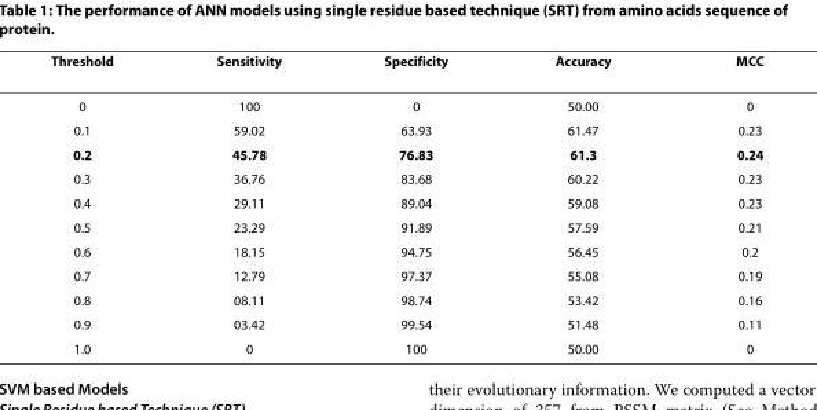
<table><thead><tr><td>Threshold</td><td>Sensitivity</td><td>Specificity</td><td>Accuracy</td><td>MCC</td></tr></thead><tbody><tr><td>0</td><td>100</td><td>0</td><td>50.00</td><td>0</td></tr><tr><td>0.1</td><td>59.02</td><td>63.93</td><td>61.47</td><td>0.23</td></tr><tr><td>0.2</td><td>45.78</td><td>76.83</td><td>61.3</td><td>0.24</td></tr><tr><td>0.3</td><td>36.76</td><td>83.68</td><td>60.22</td><td>0.23</td></tr><tr><td>0.4</td><td>29.11</td><td>89.04</td><td>59.08</td><td>0.23</td></tr><tr><td>0.5</td><td>23.29</td><td>91.89</td><td>57.59</td><td>0.21</td></tr><tr><td>0.6</td><td>18.15</td><td>94.75</td><td>56.45</td><td>0.2</td></tr><tr><td>0.7</td><td>12.79</td><td>97.37</td><td>55.08</td><td>0.19</td></tr><tr><td>0.8</td><td>08.11</td><td>98.74</td><td>53.42</td><td>0.16</td></tr><tr><td>0.9</td><td>03.42</td><td>99.54</td><td>51.48</td><td>0.11</td></tr><tr><td>1.0</td><td>0</td><td>100</td><td>50.00</td><td>0</td></tr></tbody></table>